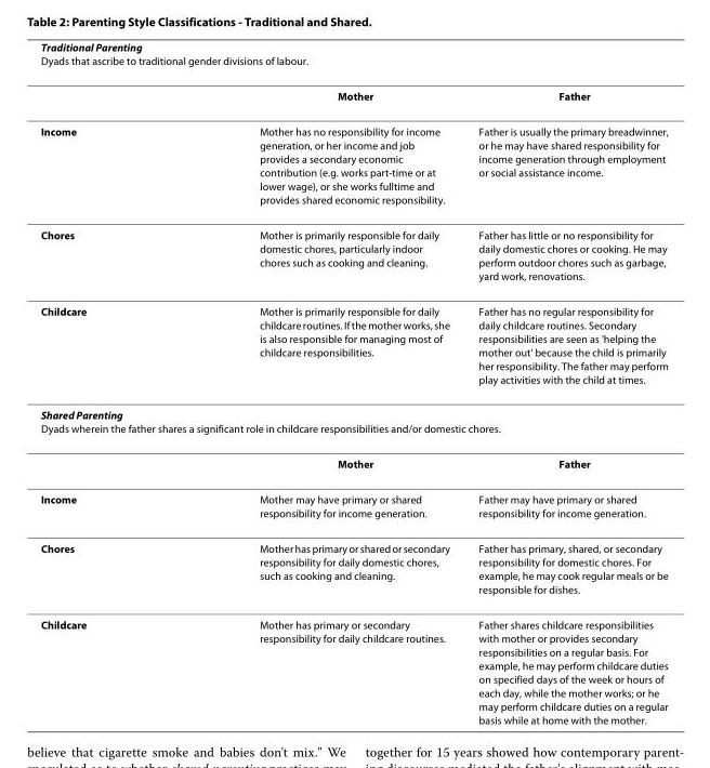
<table><thead><tr><td colspan="3">Traditional Parenting Dyads that ascribe to traditional gender divisions of labour.</td></tr><tr><td></td><td>Mother</td><td>Father</td></tr></thead><tbody><tr><td>Income</td><td>Mother has no responsibility for income generation, or her income and job provides a secondary economic contribution (e.g. works part-time or at lower wage), or she works fulltime and provides shared economic responsibility.</td><td>Father is usually the primary breadwinner, or he may have shared responsibility for income generation through employment or social assistance income.</td></tr><tr><td>Chores</td><td>Mother is primarily responsible for daily domestic chores, particularly indoor chores such as cooking and cleaning.</td><td>Father has little or no responsibility for daily domestic chores or cooking. He may perform outdoor chores such as garbage, yard work, renovations.</td></tr><tr><td>Childcare</td><td>Mother is primarily responsible for daily childcare routines. If the mother works, she is also responsible for managing most of childcare responsibilities.</td><td>Father has no regular responsibility for daily childcare routines. Secondary responsibilities are seen as &#x27;helping the mother out&#x27; because the child is primarily her responsibility. The father may perform play activities with the child at times.</td></tr><tr><td colspan="3">Shared Parenting Dyads wherein the father shares a significant role in childcare responsibilities and/or domestic chores.</td></tr><tr><td></td><td>Mother</td><td>Father</td></tr><tr><td>Income</td><td>Mother may have primary or shared responsibility for income generation.</td><td>Father may have primary or shared responsibility for income generation.</td></tr><tr><td>Chores</td><td>Mother has primary or shared or secondary responsibility for daily domestic chores, such as cooking and cleaning.</td><td>Father has primary, shared, or secondary responsibility for domestic chores. For example, he may cook regular meals or be responsible for dishes.</td></tr><tr><td>Childcare</td><td>Mother has primary or secondary responsibility for daily childcare routines.</td><td>Father shares childcare responsibilities with mother or provides secondary responsibilities on a regular basis. For example, he may perform childcare duties on specified days of the week or hours of each day, while the mother works; or he may perform childcare duties on a regular basis while at home with the mother.</td></tr></tbody></table>